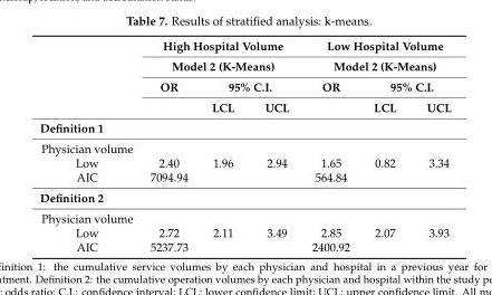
<table><thead><tr><td rowspan="4"></td><td rowspan="2" colspan="3">High Hospital Volume Model 2 (K-Means)</td><td rowspan="2" colspan="3">Low Hospital Volume Model 2 (K-Means)</td></tr><tr></tr><tr><td rowspan="2">OR</td><td colspan="2">95% C.I.</td><td rowspan="2">OR</td><td colspan="2">95% C.I.</td></tr><tr><td>LCL</td><td>UCL</td><td>LCL</td><td>UCL</td></tr></thead><tbody><tr><td colspan="7">Definition 1</td></tr><tr><td colspan="7">Physician volume</td></tr><tr><td>Low</td><td>2.40</td><td>1.96</td><td>2.94</td><td>1.65</td><td>0.82</td><td>3.34</td></tr><tr><td>AIC</td><td>7094.94</td><td></td><td></td><td>564.84</td><td></td><td></td></tr><tr><td colspan="7">Definition 2</td></tr><tr><td colspan="7">Physician volume</td></tr><tr><td>Low</td><td>2.72</td><td>2.11</td><td>3.49</td><td>2.85</td><td>2.07</td><td>3.93</td></tr><tr><td>AIC</td><td>5237.73</td><td></td><td></td><td>2400.92</td><td></td><td></td></tr></tbody></table>